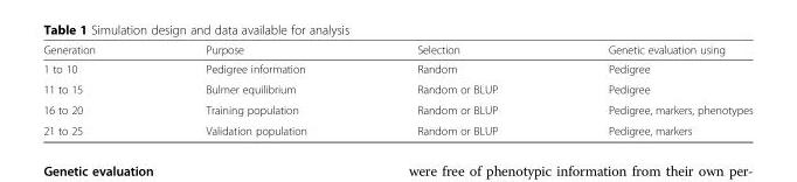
<table><thead><tr><td>Generation</td><td>Purpose</td><td>Selection</td><td>Genetic evaluation using</td></tr></thead><tbody><tr><td>1 to 10</td><td>Pedigree information</td><td>Random</td><td>Pedigree</td></tr><tr><td>11 to 15</td><td>Bulmer equilibrium</td><td>Random or BLUP</td><td>Pedigree</td></tr><tr><td>16 to 20</td><td>Training population</td><td>Random or BLUP</td><td>Pedigree, markers, phenotypes</td></tr><tr><td>21 to 25</td><td>Validation population</td><td>Random or BLUP</td><td>Pedigree, markers</td></tr></tbody></table>